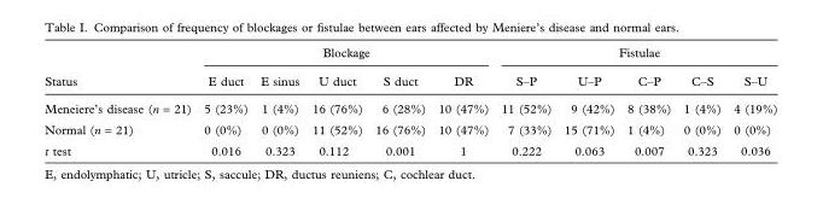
<table><thead><tr><td rowspan="2">Status</td><td colspan="5">Blockage</td><td colspan="5">Fistulae</td></tr><tr><td>E duct</td><td>E sinus</td><td>U duct</td><td>S duct</td><td>DR</td><td>S–P</td><td>U–P</td><td>C–P</td><td>C–S</td><td>S–U</td></tr></thead><tbody><tr><td>Meneiere’s disease (n = 21)</td><td>5 (23%)</td><td>1 (4%)</td><td>16 (76%)</td><td>6 (28%)</td><td>10 (47%)</td><td>11 (52%)</td><td>9 (42%)</td><td>8 (38%)</td><td>1 (4%)</td><td>4 (19%)</td></tr><tr><td>Normal (n = 21)</td><td>0 (0%)</td><td>0 (0%)</td><td>11 (52%)</td><td>16 (76%)</td><td>10 (47%)</td><td>7 (33%)</td><td>15 (71%)</td><td>1 (4%)</td><td>0 (0%)</td><td>0 (0%)</td></tr><tr><td>t test</td><td>0.016</td><td>0.323</td><td>0.112</td><td>0.001</td><td>1</td><td>0.222</td><td>0.063</td><td>0.007</td><td>0.323</td><td>0.036</td></tr></tbody></table>